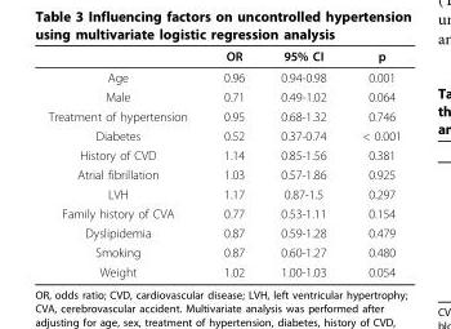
<table><thead><tr><td></td><td>OR</td><td>95% CI</td><td>p</td></tr></thead><tbody><tr><td>Age</td><td>0.96</td><td>0.94-0.98</td><td>0.001</td></tr><tr><td>Male</td><td>0.71</td><td>0.49-1.02</td><td>0.064</td></tr><tr><td>Treatment of hypertension</td><td>0.95</td><td>0.68-1.32</td><td>0.746</td></tr><tr><td>Diabetes</td><td>0.52</td><td>0.37-0.74</td><td>&lt; 0.001</td></tr><tr><td>History of CVD</td><td>1.14</td><td>0.85-1.56</td><td>0.381</td></tr><tr><td>Atrial fibrillation</td><td>1.03</td><td>0.57-1.86</td><td>0.925</td></tr><tr><td>LVH</td><td>1.17</td><td>0.87-1.5</td><td>0.297</td></tr><tr><td>Family history of CVA</td><td>0.77</td><td>0.53-1.11</td><td>0.154</td></tr><tr><td>Dyslipidemia</td><td>0.87</td><td>0.59-1.28</td><td>0.479</td></tr><tr><td>Smoking</td><td>0.87</td><td>0.60-1.27</td><td>0.480</td></tr><tr><td>Weight</td><td>1.02</td><td>1.00-1.03</td><td>0.054</td></tr></tbody></table>